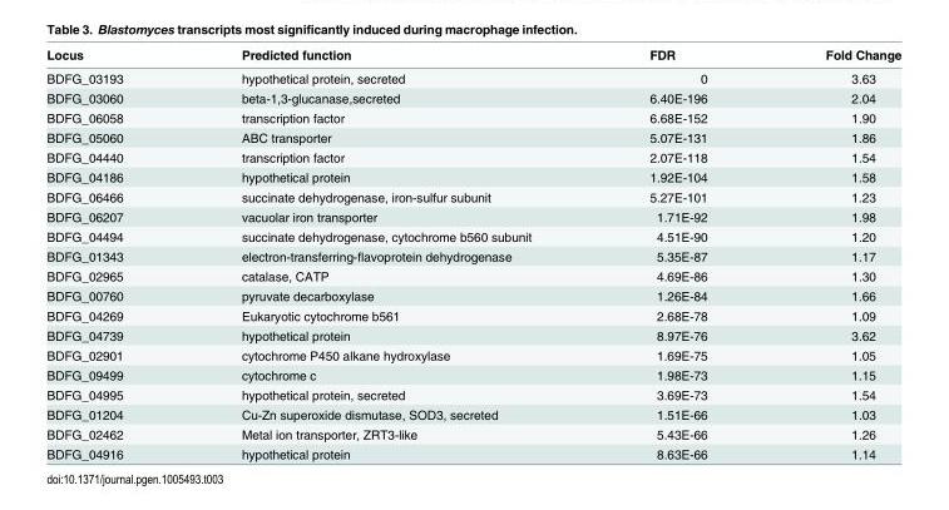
<table><thead><tr><td>Locus</td><td>Predicted function</td><td>FDR</td><td>Fold Change</td></tr></thead><tbody><tr><td>BDFG_03193</td><td>hypothetical protein, secreted</td><td>0</td><td>3.63</td></tr><tr><td>BDFG_03060</td><td>beta-1,3-glucanase,secreted</td><td>6.40E-196</td><td>2.04</td></tr><tr><td>BDFG_06058</td><td>transcription factor</td><td>6.68E-152</td><td>1.90</td></tr><tr><td>BDFG_05060</td><td>ABC transporter</td><td>5.07E-131</td><td>1.86</td></tr><tr><td>BDFG_04440</td><td>transcription factor</td><td>2.07E-118</td><td>1.54</td></tr><tr><td>BDFG_04186</td><td>hypothetical protein</td><td>1.92E-104</td><td>1.58</td></tr><tr><td>BDFG_06466</td><td>succinate dehydrogenase, iron-sulfur subunit</td><td>5.27E-101</td><td>1.23</td></tr><tr><td>BDFG_06207</td><td>vacuolar iron transporter</td><td>1.71E-92</td><td>1.98</td></tr><tr><td>BDFG_04494</td><td>succinate dehydrogenase, cytochrome b560 subunit</td><td>4.51E-90</td><td>1.20</td></tr><tr><td>BDFG_01343</td><td>electron-transferring-flavoprotein dehydrogenase</td><td>5.35E-87</td><td>1.17</td></tr><tr><td>BDFG_02965</td><td>catalase, CATP</td><td>4.69E-86</td><td>1.30</td></tr><tr><td>BDFG_00760</td><td>pyruvate decarboxylase</td><td>1.26E-84</td><td>1.66</td></tr><tr><td>BDFG_04269</td><td>Eukaryotic cytochrome b561</td><td>2.68E-78</td><td>1.09</td></tr><tr><td>BDFG_04739</td><td>hypothetical protein</td><td>8.97E-76</td><td>3.62</td></tr><tr><td>BDFG_02901</td><td>cytochrome P450 alkane hydroxylase</td><td>1.69E-75</td><td>1.05</td></tr><tr><td>BDFG_09499</td><td>cytochrome c</td><td>1.98E-73</td><td>1.15</td></tr><tr><td>BDFG_04995</td><td>hypothetical protein, secreted</td><td>3.69E-73</td><td>1.54</td></tr><tr><td>BDFG_01204</td><td>Cu-Zn superoxide dismutase, SOD3, secreted</td><td>1.51E-66</td><td>1.03</td></tr><tr><td>BDFG_02462</td><td>Metal ion transporter, ZRT3-like</td><td>5.43E-66</td><td>1.26</td></tr><tr><td>BDFG_04916</td><td>hypothetical protein</td><td>8.63E-66</td><td>1.14</td></tr></tbody></table>